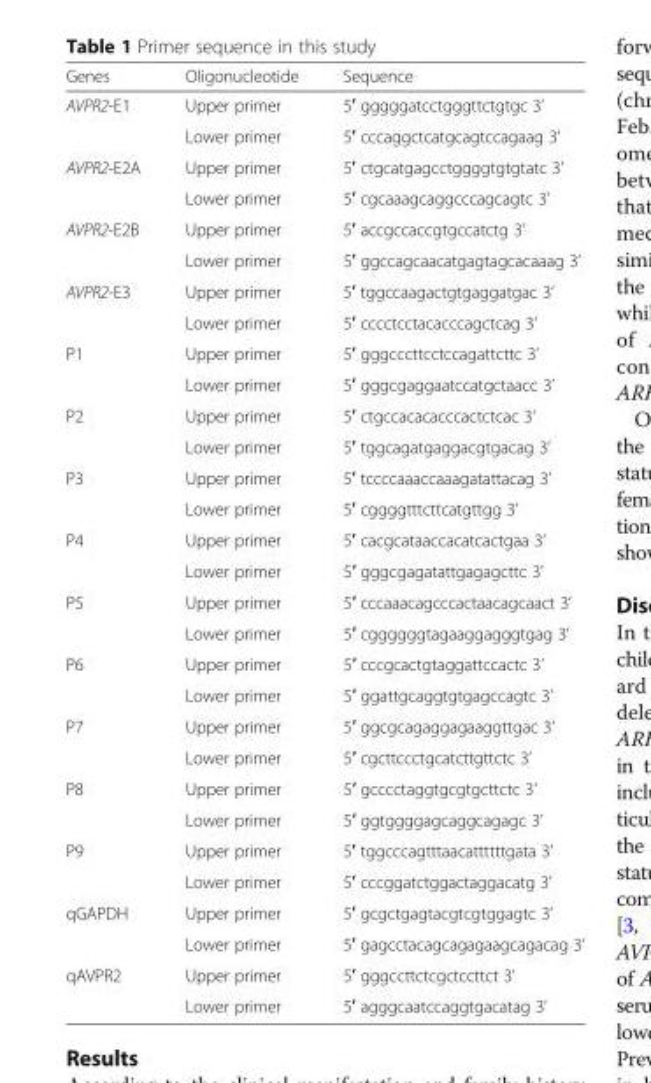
<table><thead><tr><td>Genes</td><td>Oligonucleotide</td><td>Sequence</td></tr></thead><tbody><tr><td rowspan="2">AVPR2-E1</td><td>Upper primer</td><td>5′ gggggatcctgggttctgtgc 3’</td></tr><tr><td>Lower primer</td><td>5′ cccaggctcatgcagtccagaag 3’</td></tr><tr><td rowspan="2">AVPR2-E2A</td><td>Upper primer</td><td>5′ ctgcatgagcctggggtgtgtatc 3’</td></tr><tr><td>Lower primer</td><td>5′ cgcaaagcaggcccagcagtc 3’</td></tr><tr><td rowspan="2">AVPR2-E2B</td><td>Upper primer</td><td>5′ accgccaccgtgccatctg 3’</td></tr><tr><td>Lower primer</td><td>5′ ggccagcaacatgagtagcacaaag 3’</td></tr><tr><td rowspan="2">AVPR2-E3</td><td>Upper primer</td><td>5′ tggccaagactgtgaggatgac 3’</td></tr><tr><td>Lower primer</td><td>5′ cccctcctacacccagctcag 3’</td></tr><tr><td rowspan="2">P1</td><td>Upper primer</td><td>5′ gggcccttcctccagattcttc 3’</td></tr><tr><td>Lower primer</td><td>5′ gggcgaggaatccatgctaacc 3’</td></tr><tr><td rowspan="2">P2</td><td>Upper primer</td><td>5′ ctgccacacacccactctcac 3’</td></tr><tr><td>Lower primer</td><td>5′ tggcagatgaggacgtgacag 3’</td></tr><tr><td rowspan="2">P3</td><td>Upper primer</td><td>5′ tccccaaaccaaagatattacag 3’</td></tr><tr><td>Lower primer</td><td>5′ cggggtttcttcatgttgg 3’</td></tr><tr><td rowspan="2">P4</td><td>Upper primer</td><td>5′ cacgcataaccacatcactgaa 3’</td></tr><tr><td>Lower primer</td><td>5′ gggcgagatattgagagcttc 3’</td></tr><tr><td rowspan="2">P5</td><td>Upper primer</td><td>5′ cccaaacagcccactaacagcaact 3’</td></tr><tr><td>Lower primer</td><td>5′ cggggggtagaaggagggtgag 3’</td></tr><tr><td rowspan="2">P6</td><td>Upper primer</td><td>5′ cccgcactgtaggattccactc 3’</td></tr><tr><td>Lower primer</td><td>5′ ggattgcaggtgtgagccagtc 3’</td></tr><tr><td rowspan="2">P7</td><td>Upper primer</td><td>5′ ggcgcagaggagaaggttgac 3’</td></tr><tr><td>Lower primer</td><td>5′ cgcttccctgcatcttgttctc 3’</td></tr><tr><td rowspan="2">P8</td><td>Upper primer</td><td>5′ gcccctaggtgcgtgcttctc 3’</td></tr><tr><td>Lower primer</td><td>5′ ggtggggagcaggcagagc 3’</td></tr><tr><td rowspan="2">P9</td><td>Upper primer</td><td>5′ tggcccagtttaacattttttgata 3’</td></tr><tr><td>Lower primer</td><td>5′ cccggatctggactaggacatg 3’</td></tr><tr><td rowspan="2">qGAPDH</td><td>Upper primer</td><td>5′ gcgctgagtacgtcgtggagtc 3’</td></tr><tr><td>Lower primer</td><td>5′ gagcctacagcagagaagcagacag 3’</td></tr><tr><td rowspan="2">qAVPR2</td><td>Upper primer</td><td>5′ gggccttctcgctccttct 3’</td></tr><tr><td>Lower primer</td><td>5′ agggcaatccaggtgacatag 3’</td></tr></tbody></table>